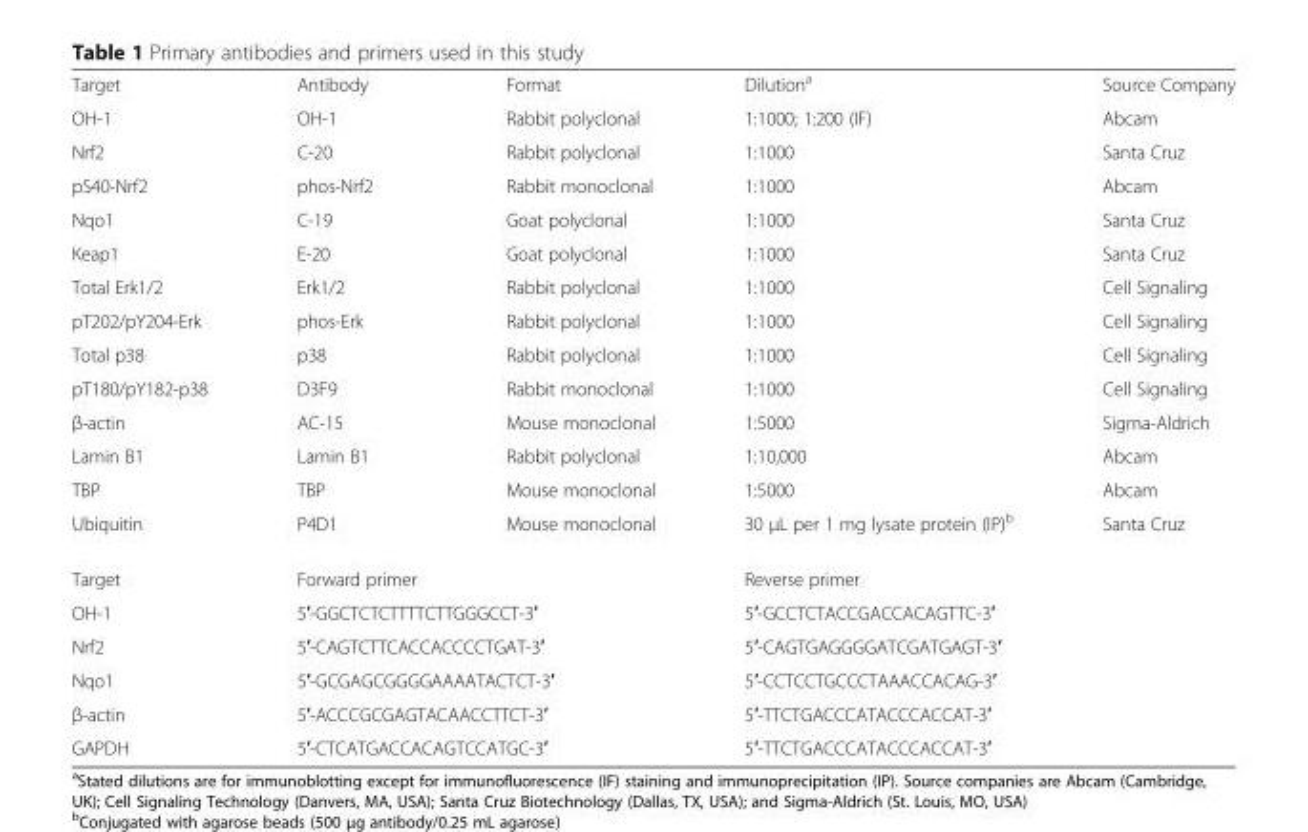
<table><tbody><tr><td>Target</td><td>Antibody</td><td>Format</td><td>Dilution<sup>a</sup></td><td>Source Company</td></tr><tr><td>OH-1</td><td>OH-1</td><td>Rabbit polyclonal</td><td>1:1000; 1:200 (IF)</td><td>Abcam</td></tr><tr><td>Nrf2</td><td>C-20</td><td>Rabbit polyclonal</td><td>1:1000</td><td>Santa Cruz</td></tr><tr><td>pS40-Nrf2</td><td>phos-Nrf2</td><td>Rabbit monoclonal</td><td>1:1000</td><td>Abcam</td></tr><tr><td>Nqo1</td><td>C-19</td><td>Goat polyclonal</td><td>1:1000</td><td>Santa Cruz</td></tr><tr><td>Keap1</td><td>E-20</td><td>Goat polyclonal</td><td>1:1000</td><td>Santa Cruz</td></tr><tr><td>Total Erk1/2</td><td>Erk1/2</td><td>Rabbit polyclonal</td><td>1:1000</td><td>Cell Signaling</td></tr><tr><td>pT202/pY204-Erk</td><td>phos-Erk</td><td>Rabbit polyclonal</td><td>1:1000</td><td>Cell Signaling</td></tr><tr><td>Total p38</td><td>p38</td><td>Rabbit polyclonal</td><td>1:1000</td><td>Cell Signaling</td></tr><tr><td>pT180/pY182-p38</td><td>D3F9</td><td>Rabbit monoclonal</td><td>1:1000</td><td>Cell Signaling</td></tr><tr><td>β-actin</td><td>AC-15</td><td>Mouse monoclonal</td><td>1:5000</td><td>Sigma-Aldrich</td></tr><tr><td>Lamin B1</td><td>Lamin B1</td><td>Rabbit polyclonal</td><td>1:10,000</td><td>Abcam</td></tr><tr><td>TBP</td><td>TBP</td><td>Mouse monoclonal</td><td>1:5000</td><td>Abcam</td></tr><tr><td>Ubiquitin</td><td>P4D1</td><td>Mouse monoclonal</td><td>30 μL per 1 mg lysate protein (IP)<sup>b</sup></td><td>Santa Cruz</td></tr><tr><td>Target</td><td>Forward primer</td><td></td><td>Reverse primer</td><td></td></tr><tr><td>OH-1</td><td colspan="2">5′-GGCTCTCTTTTCTTGGGCCT-3′</td><td colspan="2">5′-GCCTCTACCGACCACAGTTC-3′</td></tr><tr><td>Nrf2</td><td colspan="2">5′-CAGTCTTCACCACCCCTGAT-3′</td><td colspan="2">5′-CAGTGAGGGGATCGATGAGT-3′</td></tr><tr><td>Nqo1</td><td colspan="2">5′-GCGAGCGGGGAAAATACTCT-3′</td><td colspan="2">5′-CCTCCTGCCCTAAACCACAG-3′</td></tr><tr><td>β-actin</td><td colspan="2">5′-ACCCGCGAGTACAACCTTCT-3′</td><td colspan="2">5′-TTCTGACCCATACCCACCAT-3′</td></tr><tr><td>GAPDH</td><td colspan="2">5′-CTCATGACCACAGTCCATGC-3′</td><td colspan="2">5′-TTCTGACCCATACCCACCAT-3′</td></tr></tbody></table>